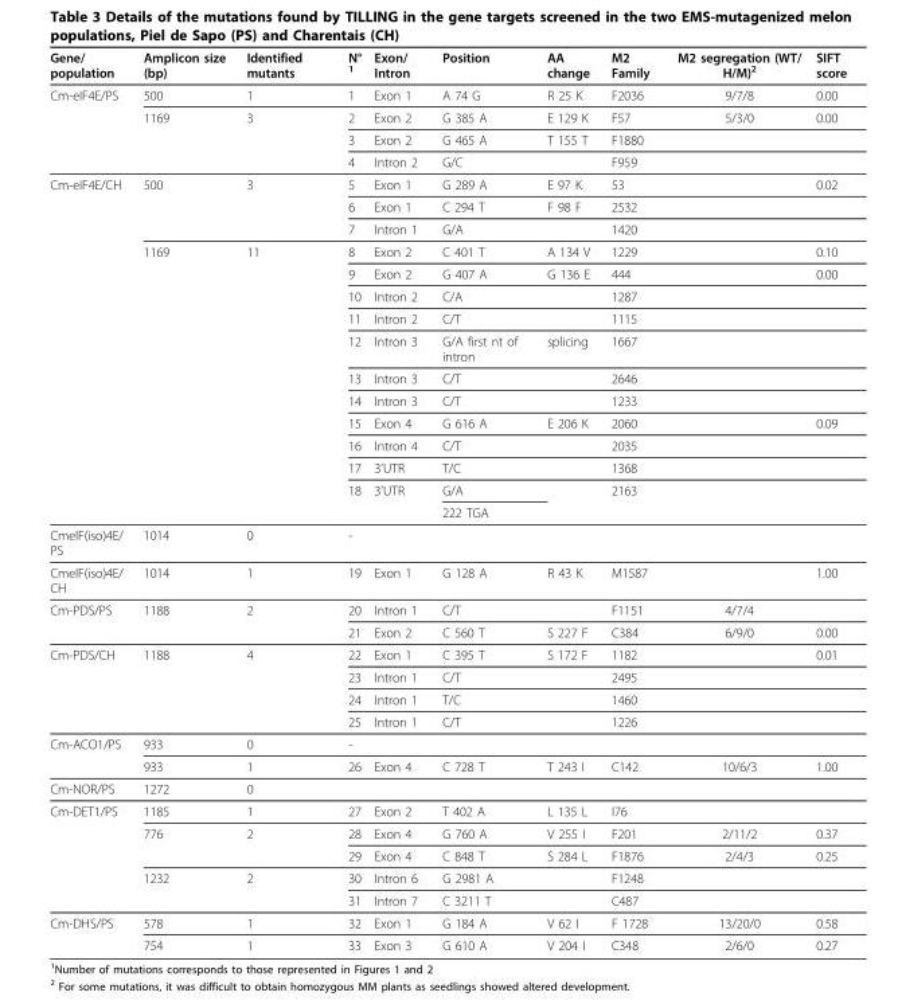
<table><thead><tr><td>Gene/ population</td><td>Amplicon size (bp)</td><td>Identified mutants</td><td>N° <sup>1</sup></td><td>Exon/ Intron</td><td>Position</td><td>AA change</td><td>M2 Family</td><td>M2 segregation (WT/ H/M)<sup>2</sup></td><td>SIFT score</td></tr></thead><tbody><tr><td rowspan="4">Cm-eIF4E/PS</td><td>500</td><td>1</td><td>1</td><td>Exon 1</td><td>A 74 G</td><td>R 25 K</td><td>F2036</td><td>9/7/8</td><td>0.00</td></tr><tr><td>1169</td><td>3</td><td>2</td><td>Exon 2</td><td>G 385 A</td><td>E 129 K</td><td>F57</td><td>5/3/0</td><td>0.00</td></tr><tr><td></td><td></td><td>3</td><td>Exon 2</td><td>G 465 A</td><td>T 155 T</td><td>F1880</td><td></td><td></td></tr><tr><td></td><td></td><td>4</td><td>Intron 2</td><td>G/C</td><td></td><td>F959</td><td></td><td></td></tr><tr><td rowspan="15">Cm-eIF4E/CH</td><td>500</td><td>3</td><td>5</td><td>Exon 1</td><td>G 289 A</td><td>E 97 K</td><td>53</td><td></td><td>0.02</td></tr><tr><td></td><td></td><td>6</td><td>Exon 1</td><td>C 294 T</td><td>F 98 F</td><td>2532</td><td></td><td></td></tr><tr><td></td><td></td><td>7</td><td>Intron 1</td><td>G/A</td><td></td><td>1420</td><td></td><td></td></tr><tr><td>1169</td><td>11</td><td>8</td><td>Exon 2</td><td>C 401 T</td><td>A 134 V</td><td>1229</td><td></td><td>0.10</td></tr><tr><td></td><td></td><td>9</td><td>Exon 2</td><td>G 407 A</td><td>G 136 E</td><td>444</td><td></td><td>0.00</td></tr><tr><td></td><td></td><td>10</td><td>Intron 2</td><td>C/A</td><td></td><td>1287</td><td></td><td></td></tr><tr><td></td><td></td><td>11</td><td>Intron 2</td><td>C/T</td><td></td><td>1115</td><td></td><td></td></tr><tr><td></td><td></td><td>12</td><td>Intron 3</td><td>G/A first nt of intron</td><td>splicing</td><td>1667</td><td></td><td></td></tr><tr><td></td><td></td><td>13</td><td>Intron 3</td><td>C/T</td><td></td><td>2646</td><td></td><td></td></tr><tr><td></td><td></td><td>14</td><td>Intron 3</td><td>C/T</td><td></td><td>1233</td><td></td><td></td></tr><tr><td></td><td></td><td>15</td><td>Exon 4</td><td>G 616 A</td><td>E 206 K</td><td>2060</td><td></td><td>0.09</td></tr><tr><td></td><td></td><td>16</td><td>Intron 4</td><td>C/T</td><td></td><td>2035</td><td></td><td></td></tr><tr><td></td><td></td><td>17</td><td>3’UTR</td><td>T/C</td><td></td><td>1368</td><td></td><td></td></tr><tr><td></td><td></td><td>18</td><td>3’UTR</td><td>G/A</td><td></td><td>2163</td><td></td><td></td></tr><tr><td></td><td></td><td></td><td></td><td>222 TGA</td><td></td><td></td><td></td><td></td></tr><tr><td>CmeIF(iso)4E/ PS</td><td>1014</td><td>0</td><td>-</td><td></td><td></td><td></td><td></td><td></td><td></td></tr><tr><td>CmeIF(iso)4E/ CH</td><td>1014</td><td>1</td><td>19</td><td>Exon 1</td><td>G 128 A</td><td>R 43 K</td><td>M1587</td><td></td><td>1.00</td></tr><tr><td rowspan="2">Cm-PDS/PS</td><td>1188</td><td>2</td><td>20</td><td>Intron 1</td><td>C/T</td><td></td><td>F1151</td><td>4/7/4</td><td></td></tr><tr><td></td><td></td><td>21</td><td>Exon 2</td><td>C 560 T</td><td>S 227 F</td><td>C384</td><td>6/9/0</td><td>0.00</td></tr><tr><td rowspan="4">Cm-PDS/CH</td><td>1188</td><td>4</td><td>22</td><td>Exon 1</td><td>C 395 T</td><td>S 172 F</td><td>1182</td><td></td><td>0.01</td></tr><tr><td></td><td></td><td>23</td><td>Intron 1</td><td>C/T</td><td></td><td>2495</td><td></td><td></td></tr><tr><td></td><td></td><td>24</td><td>Intron 1</td><td>T/C</td><td></td><td>1460</td><td></td><td></td></tr><tr><td></td><td></td><td>25</td><td>Intron 1</td><td>C/T</td><td></td><td>1226</td><td></td><td></td></tr><tr><td rowspan="2">Cm-ACO1/PS</td><td>933</td><td>0</td><td>-</td><td></td><td></td><td></td><td></td><td></td><td></td></tr><tr><td>933</td><td>1</td><td>26</td><td>Exon 4</td><td>C 728 T</td><td>T 243 I</td><td>C142</td><td>10/6/3</td><td>1.00</td></tr><tr><td>Cm-NOR/PS</td><td>1272</td><td>0</td><td></td><td></td><td></td><td></td><td></td><td></td><td></td></tr><tr><td rowspan="5">Cm-DET1/PS</td><td>1185</td><td>1</td><td>27</td><td>Exon 2</td><td>T 402 A</td><td>L 135 L</td><td>I76</td><td></td><td></td></tr><tr><td>776</td><td>2</td><td>28</td><td>Exon 4</td><td>G 760 A</td><td>V 255 I</td><td>F201</td><td>2/11/2</td><td>0.37</td></tr><tr><td></td><td></td><td>29</td><td>Exon 4</td><td>C 848 T</td><td>S 284 L</td><td>F1876</td><td>2/4/3</td><td>0.25</td></tr><tr><td>1232</td><td>2</td><td>30</td><td>Intron 6</td><td>G 2981 A</td><td></td><td>F1248</td><td></td><td></td></tr><tr><td></td><td></td><td>31</td><td>Intron 7</td><td>C 3211 T</td><td></td><td>C487</td><td></td><td></td></tr><tr><td rowspan="2">Cm-DHS/PS</td><td>578</td><td>1</td><td>32</td><td>Exon 1</td><td>G 184 A</td><td>V 62 I</td><td>F 1728</td><td>13/20/0</td><td>0.58</td></tr><tr><td>754</td><td>1</td><td>33</td><td>Exon 3</td><td>G 610 A</td><td>V 204 I</td><td>C348</td><td>2/6/0</td><td>0.27</td></tr></tbody></table>